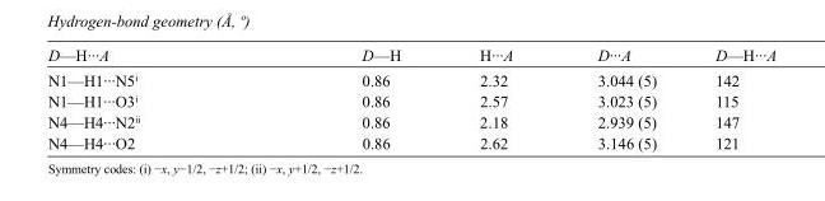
<table><tbody><tr><td>D—H···A</td><td>D—H</td><td>H···A</td><td>D···A</td><td>D—H···A</td></tr><tr><td>N1—H1···N5<sup>i</sup></td><td>0.86</td><td>2.32</td><td>3.044 (5)</td><td>142</td></tr><tr><td>N1—H1···O3<sup>i</sup></td><td>0.86</td><td>2.57</td><td>3.023 (5)</td><td>115</td></tr><tr><td>N4—H4···N2<sup>ii</sup></td><td>0.86</td><td>2.18</td><td>2.939 (5)</td><td>147</td></tr><tr><td>N4—H4···O2</td><td>0.86</td><td>2.62</td><td>3.146 (5)</td><td>121</td></tr></tbody></table>